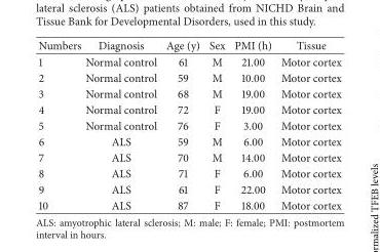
<table><thead><tr><td>Numbers</td><td>Diagnosis</td><td>Age (y)</td><td>Sex</td><td>PMI (h)</td><td>Tissue</td></tr></thead><tbody><tr><td>1</td><td>Normal control</td><td>61</td><td>M</td><td>21.00</td><td>Motor cortex</td></tr><tr><td>2</td><td>Normal control</td><td>59</td><td>M</td><td>10.00</td><td>Motor cortex</td></tr><tr><td>3</td><td>Normal control</td><td>68</td><td>M</td><td>19.00</td><td>Motor cortex</td></tr><tr><td>4</td><td>Normal control</td><td>72</td><td>F</td><td>19.00</td><td>Motor cortex</td></tr><tr><td>5</td><td>Normal control</td><td>76</td><td>F</td><td>3.00</td><td>Motor cortex</td></tr><tr><td>6</td><td>ALS</td><td>59</td><td>M</td><td>6.00</td><td>Motor cortex</td></tr><tr><td>7</td><td>ALS</td><td>70</td><td>M</td><td>14.00</td><td>Motor cortex</td></tr><tr><td>8</td><td>ALS</td><td>71</td><td>F</td><td>6.00</td><td>Motor cortex</td></tr><tr><td>9</td><td>ALS</td><td>61</td><td>F</td><td>22.00</td><td>Motor cortex</td></tr><tr><td>10</td><td>ALS</td><td>87</td><td>F</td><td>18.00</td><td>Motor cortex</td></tr></tbody></table>